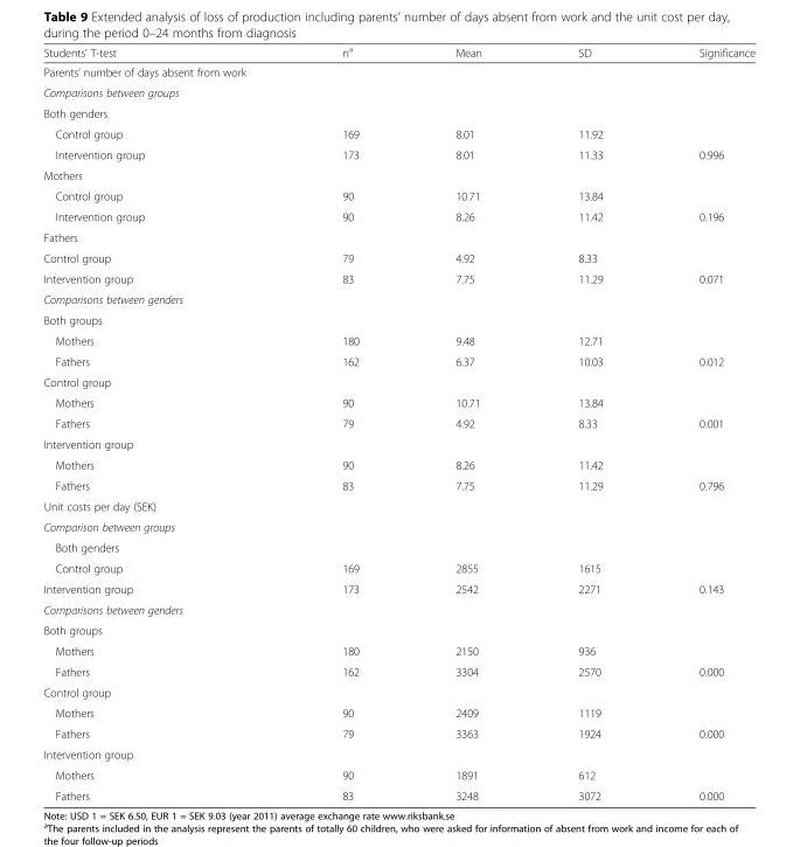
<table><thead><tr><td>Students’ T-test</td><td>n<sup>a</sup></td><td>Mean</td><td>SD</td><td>Significance</td></tr></thead><tbody><tr><td colspan="5">Parents’ number of days absent from work</td></tr><tr><td colspan="5">Comparisons between groups</td></tr><tr><td colspan="5">Both genders</td></tr><tr><td>Control group</td><td>169</td><td>8.01</td><td>11.92</td><td></td></tr><tr><td>Intervention group</td><td>173</td><td>8.01</td><td>11.33</td><td>0.996</td></tr><tr><td colspan="5">Mothers</td></tr><tr><td>Control group</td><td>90</td><td>10.71</td><td>13.84</td><td></td></tr><tr><td>Intervention group</td><td>90</td><td>8.26</td><td>11.42</td><td>0.196</td></tr><tr><td colspan="5">Fathers</td></tr><tr><td>Control group</td><td>79</td><td>4.92</td><td>8.33</td><td></td></tr><tr><td>Intervention group</td><td>83</td><td>7.75</td><td>11.29</td><td>0.071</td></tr><tr><td colspan="5">Comparisons between genders</td></tr><tr><td colspan="5">Both groups</td></tr><tr><td>Mothers</td><td>180</td><td>9.48</td><td>12.71</td><td></td></tr><tr><td>Fathers</td><td>162</td><td>6.37</td><td>10.03</td><td>0.012</td></tr><tr><td colspan="5">Control group</td></tr><tr><td>Mothers</td><td>90</td><td>10.71</td><td>13.84</td><td></td></tr><tr><td>Fathers</td><td>79</td><td>4.92</td><td>8.33</td><td>0.001</td></tr><tr><td colspan="5">Intervention group</td></tr><tr><td>Mothers</td><td>90</td><td>8.26</td><td>11.42</td><td></td></tr><tr><td>Fathers</td><td>83</td><td>7.75</td><td>11.29</td><td>0.796</td></tr><tr><td colspan="5">Unit costs per day (SEK)</td></tr><tr><td colspan="5">Comparison between groups</td></tr><tr><td colspan="5">Both genders</td></tr><tr><td>Control group</td><td>169</td><td>2855</td><td>1615</td><td></td></tr><tr><td>Intervention group</td><td>173</td><td>2542</td><td>2271</td><td>0.143</td></tr><tr><td colspan="5">Comparisons between genders</td></tr><tr><td colspan="5">Both groups</td></tr><tr><td>Mothers</td><td>180</td><td>2150</td><td>936</td><td></td></tr><tr><td>Fathers</td><td>162</td><td>3304</td><td>2570</td><td>0.000</td></tr><tr><td colspan="5">Control group</td></tr><tr><td>Mothers</td><td>90</td><td>2409</td><td>1119</td><td></td></tr><tr><td>Fathers</td><td>79</td><td>3363</td><td>1924</td><td>0.000</td></tr><tr><td colspan="5">Intervention group</td></tr><tr><td>Mothers</td><td>90</td><td>1891</td><td>612</td><td></td></tr><tr><td>Fathers</td><td>83</td><td>3248</td><td>3072</td><td>0.000</td></tr></tbody></table>